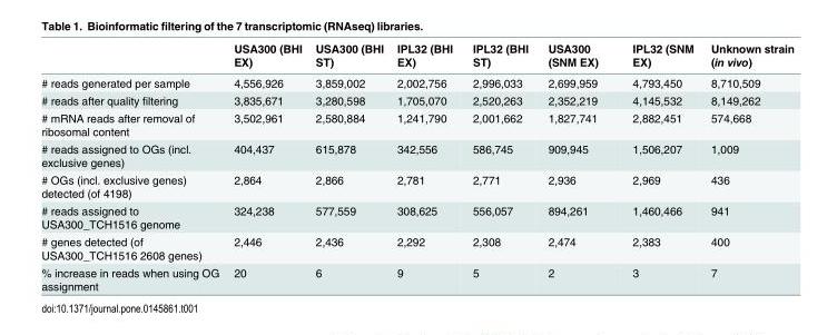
<table><thead><tr><td></td><td>USA300 (BHI EX)</td><td>USA300 (BHI ST)</td><td>IPL32 (BHI EX)</td><td>IPL32 (BHI ST)</td><td>USA300 (SNM EX)</td><td>IPL32 (SNM EX)</td><td>Unknown strain (in vivo)</td></tr></thead><tbody><tr><td># reads generated per sample</td><td>4,556,926</td><td>3,859,002</td><td>2,002,756</td><td>2,996,033</td><td>2,699,959</td><td>4,793,450</td><td>8,710,509</td></tr><tr><td># reads after quality filtering</td><td>3,835,671</td><td>3,280,598</td><td>1,705,070</td><td>2,520,263</td><td>2,352,219</td><td>4,145,532</td><td>8,149,262</td></tr><tr><td># mRNA reads after removal of ribosomal content</td><td>3,502,961</td><td>2,580,884</td><td>1,241,790</td><td>2,001,662</td><td>1,827,741</td><td>2,882,451</td><td>574,668</td></tr><tr><td># reads assigned to OGs (incl. exclusive genes)</td><td>404,437</td><td>615,878</td><td>342,556</td><td>586,745</td><td>909,945</td><td>1,506,207</td><td>1,009</td></tr><tr><td># OGs (incl. exclusive genes) detected (of 4198)</td><td>2,864</td><td>2,866</td><td>2,781</td><td>2,771</td><td>2,936</td><td>2,969</td><td>436</td></tr><tr><td># reads assigned to USA300_TCH1516 genome</td><td>324,238</td><td>577,559</td><td>308,625</td><td>556,057</td><td>894,261</td><td>1,460,466</td><td>941</td></tr><tr><td># genes detected (of USA300_TCH1516 2608 genes)</td><td>2,446</td><td>2,436</td><td>2,292</td><td>2,308</td><td>2,474</td><td>2,383</td><td>400</td></tr><tr><td>% increase in reads when using OG assignment</td><td>20</td><td>6</td><td>9</td><td>5</td><td>2</td><td>3</td><td>7</td></tr></tbody></table>